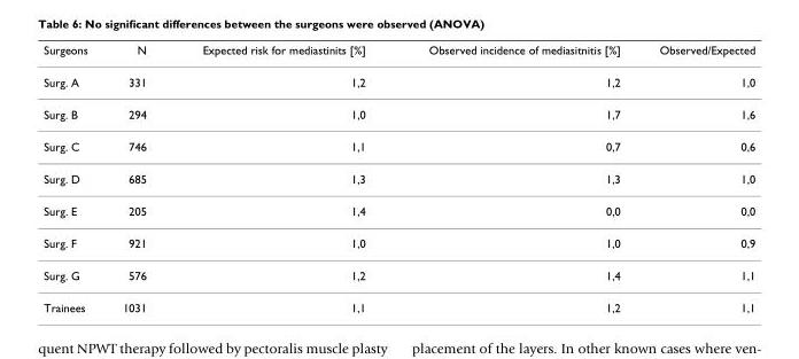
<table><thead><tr><td>Surgeons</td><td>N</td><td>Expected risk for mediastinits [%]</td><td>Observed incidence of mediasitnitis [%]</td><td>Observed/Expected</td></tr></thead><tbody><tr><td>Surg. A</td><td>331</td><td>1,2</td><td>1,2</td><td>1,0</td></tr><tr><td>Surg. B</td><td>294</td><td>1,0</td><td>1,7</td><td>1,6</td></tr><tr><td>Surg. C</td><td>746</td><td>1,1</td><td>0,7</td><td>0,6</td></tr><tr><td>Surg. D</td><td>685</td><td>1,3</td><td>1,3</td><td>1,0</td></tr><tr><td>Surg. E</td><td>205</td><td>1,4</td><td>0,0</td><td>0,0</td></tr><tr><td>Surg. F</td><td>921</td><td>1,0</td><td>1,0</td><td>0,9</td></tr><tr><td>Surg. G</td><td>576</td><td>1,2</td><td>1,4</td><td>1,1</td></tr><tr><td>Trainees</td><td>1031</td><td>1,1</td><td>1,2</td><td>1,1</td></tr></tbody></table>